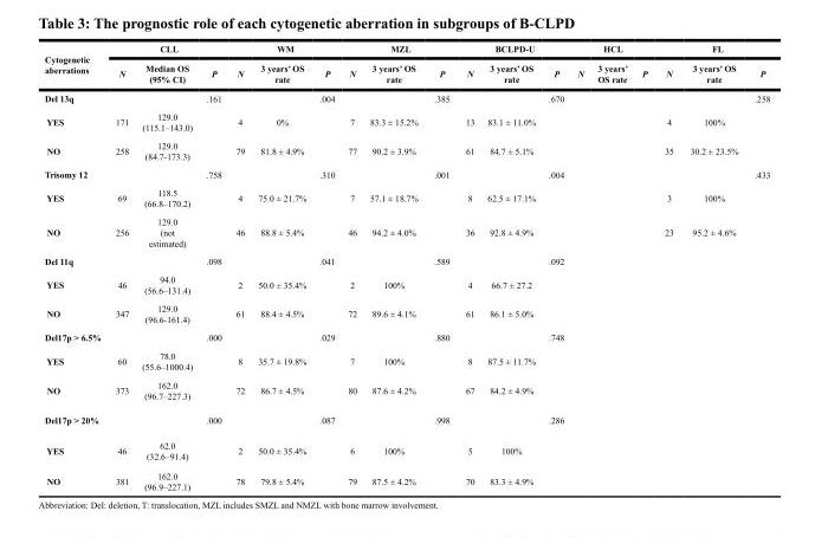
<table><thead><tr><td rowspan="2">Cytogenetic aberrations</td><td colspan="3">CLL</td><td colspan="3">WM</td><td colspan="3">MZL</td><td colspan="3">BCLPD-U</td><td colspan="3">HCL</td><td colspan="3">FL</td></tr><tr><td>N</td><td>Median OS (95% CI)</td><td>P</td><td>N</td><td>3 years’ OS rate</td><td>P</td><td>N</td><td>3 years’ OS rate</td><td>P</td><td>N</td><td>3 years’ OS rate</td><td>P</td><td>N</td><td>3 years’ OS rate</td><td>P</td><td>N</td><td>3 years’ OS rate</td><td>P</td></tr></thead><tbody><tr><td>Del 13q</td><td></td><td></td><td>.161</td><td></td><td></td><td>.004</td><td></td><td></td><td>.385</td><td></td><td></td><td>.670</td><td></td><td></td><td></td><td></td><td></td><td>.258</td></tr><tr><td>YES</td><td>171</td><td>129.0 (115.1–143.0)</td><td></td><td>4</td><td>0%</td><td></td><td>7</td><td>83.3 ± 15.2%</td><td></td><td>13</td><td>83.1 ± 11.0%</td><td></td><td></td><td></td><td></td><td>4</td><td>100%</td><td></td></tr><tr><td>NO</td><td>258</td><td>129.0 (84.7-173.3)</td><td></td><td>79</td><td>81.8 ± 4.9%</td><td></td><td>77</td><td>90.2 ± 3.9%</td><td></td><td>61</td><td>84.7 ± 5.1%</td><td></td><td></td><td></td><td></td><td>35</td><td>30.2 ± 23.5%</td><td></td></tr><tr><td>Trisomy 12</td><td></td><td></td><td>.758</td><td></td><td></td><td>.310</td><td></td><td></td><td>.001</td><td></td><td></td><td>.004</td><td></td><td></td><td></td><td></td><td></td><td>.433</td></tr><tr><td>YES</td><td>69</td><td>118.5 (66.8–170.2)</td><td></td><td>4</td><td>75.0 ± 21.7%</td><td></td><td>7</td><td>57.1 ± 18.7%</td><td></td><td>8</td><td>62.5 ± 17.1%</td><td></td><td></td><td></td><td></td><td>3</td><td>100%</td><td></td></tr><tr><td>NO</td><td>256</td><td>129.0 (not estimated)</td><td></td><td>46</td><td>88.8 ± 5.4%</td><td></td><td>46</td><td>94.2 ± 4.0%</td><td></td><td>36</td><td>92.8 ± 4.9%</td><td></td><td></td><td></td><td></td><td>23</td><td>95.2 ± 4.6%</td><td></td></tr><tr><td>Del 11q</td><td></td><td></td><td>.098</td><td></td><td></td><td>.041</td><td></td><td></td><td>.589</td><td></td><td></td><td>.092</td><td></td><td></td><td></td><td></td><td></td><td></td></tr><tr><td>YES</td><td>46</td><td>94.0 (56.6–131.4)</td><td></td><td>2</td><td>50.0 ± 35.4%</td><td></td><td>2</td><td>100%</td><td></td><td>4</td><td>66.7 ± 27.2</td><td></td><td></td><td></td><td></td><td></td><td></td><td></td></tr><tr><td>NO</td><td>347</td><td>129.0 (96.6-161.4)</td><td></td><td>61</td><td>88.4 ± 4.5%</td><td></td><td>72</td><td>89.6 ± 4.1%</td><td></td><td>61</td><td>86.1 ± 5.0%</td><td></td><td></td><td></td><td></td><td></td><td></td><td></td></tr><tr><td>Del17p &gt; 6.5%</td><td></td><td></td><td>.000</td><td></td><td></td><td>.029</td><td></td><td></td><td>.880</td><td></td><td></td><td>.748</td><td></td><td></td><td></td><td></td><td></td><td></td></tr><tr><td>YES</td><td>60</td><td>78.0 (55.6–1000.4)</td><td></td><td>8</td><td>35.7 ± 19.8%</td><td></td><td>7</td><td>100%</td><td></td><td>8</td><td>87.5 ± 11.7%</td><td></td><td></td><td></td><td></td><td></td><td></td><td></td></tr><tr><td>NO</td><td>373</td><td>162.0 (96.7–227.3)</td><td></td><td>72</td><td>86.7 ± 4.5%</td><td></td><td>80</td><td>87.6 ± 4.2%</td><td></td><td>67</td><td>84.2 ± 4.9%</td><td></td><td></td><td></td><td></td><td></td><td></td><td></td></tr><tr><td>Del17p &gt; 20%</td><td></td><td></td><td>.000</td><td></td><td></td><td>.087</td><td></td><td></td><td>.998</td><td></td><td></td><td>.286</td><td></td><td></td><td></td><td></td><td></td><td></td></tr><tr><td>YES</td><td>46</td><td>62.0 (32.6–91.4)</td><td></td><td>2</td><td>50.0 ± 35.4%</td><td></td><td>6</td><td>100%</td><td></td><td>5</td><td>100%</td><td></td><td></td><td></td><td></td><td></td><td></td><td></td></tr><tr><td>NO</td><td>381</td><td>162.0 (96.9–227.1)</td><td></td><td>78</td><td>79.8 ± 5.4%</td><td></td><td>79</td><td>87.5 ± 4.2%</td><td></td><td>70</td><td>83.3 ± 4.9%</td><td></td><td></td><td></td><td></td><td></td><td></td><td></td></tr></tbody></table>